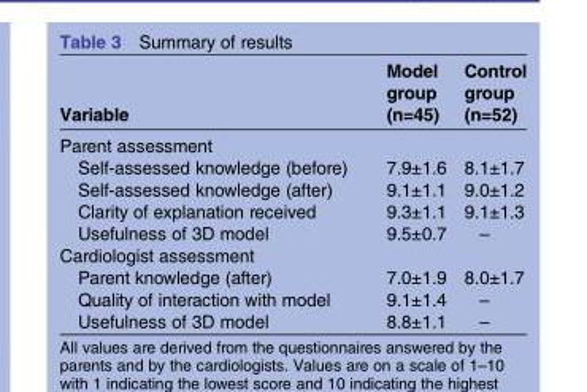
<table><thead><tr><td>Variable</td><td>Model group (n=45)</td><td>Control group (n=52)</td></tr></thead><tbody><tr><td colspan="3">Parent assessment</td></tr><tr><td>Self-assessed knowledge (before)</td><td>7.9±1.6</td><td>8.1±1.7</td></tr><tr><td>Self-assessed knowledge (after)</td><td>9.1±1.1</td><td>9.0±1.2</td></tr><tr><td>Clarity of explanation received</td><td>9.3±1.1</td><td>9.1±1.3</td></tr><tr><td>Usefulness of 3D model</td><td>9.5±0.7</td><td>–</td></tr><tr><td colspan="3">Cardiologist assessment</td></tr><tr><td>Parent knowledge (after)</td><td>7.0±1.9</td><td>8.0±1.7</td></tr><tr><td>Quality of interaction with model</td><td>9.1±1.4</td><td>–</td></tr><tr><td>Usefulness of 3D model</td><td>8.8±1.1</td><td>–</td></tr></tbody></table>